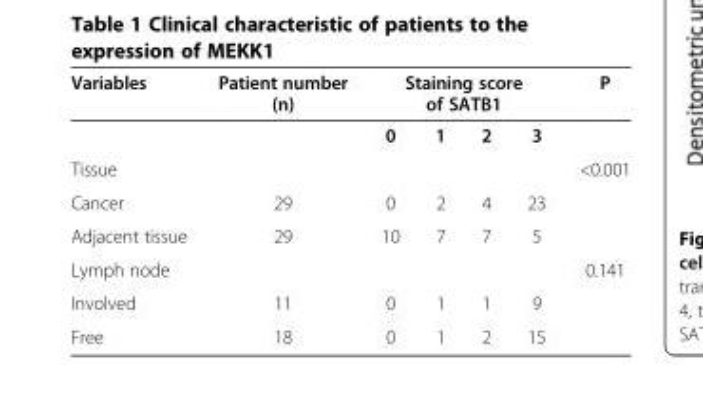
<table><thead><tr><td rowspan="2">Variables</td><td rowspan="2">Patient number (n)</td><td colspan="4">Staining score of SATB1</td><td rowspan="2">P</td></tr><tr><td>0</td><td>1</td><td>2</td><td>3</td></tr></thead><tbody><tr><td>Tissue</td><td></td><td></td><td></td><td></td><td></td><td>&lt;0.001</td></tr><tr><td>Cancer</td><td>29</td><td>0</td><td>2</td><td>4</td><td>23</td><td></td></tr><tr><td>Adjacent tissue</td><td>29</td><td>10</td><td>7</td><td>7</td><td>5</td><td></td></tr><tr><td>Lymph node</td><td></td><td></td><td></td><td></td><td></td><td>0.141</td></tr><tr><td>Involved</td><td>11</td><td>0</td><td>1</td><td>1</td><td>9</td><td></td></tr><tr><td>Free</td><td>18</td><td>0</td><td>1</td><td>2</td><td>15</td><td></td></tr></tbody></table>